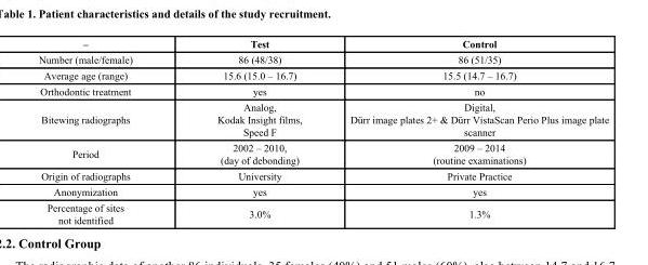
<table><thead><tr><td>–</td><td>Test</td><td>Control</td></tr></thead><tbody><tr><td>Number (male/female)</td><td>86 (48/38)</td><td>86 (51/35)</td></tr><tr><td>Average age (range)</td><td>15.6 (15.0 – 16.7)</td><td>15.5 (14.7 – 16.7)</td></tr><tr><td>Orthodontic treatment</td><td>yes</td><td>no</td></tr><tr><td>Bitewing radiographs</td><td>Analog, Kodak Insight films, Speed F</td><td>Digital, Dürr image plates 2+ &amp; Dürr VistaScan Perio Plus image plate scanner</td></tr><tr><td>Period</td><td>2002 – 2010, (day of debonding)</td><td>2009 – 2014 (routine examinations)</td></tr><tr><td>Origin of radiographs</td><td>University</td><td>Private Practice</td></tr><tr><td>Anonymization</td><td>yes</td><td>yes</td></tr><tr><td>Percentage of sites not identified</td><td>3.0%</td><td>1.3%</td></tr></tbody></table>